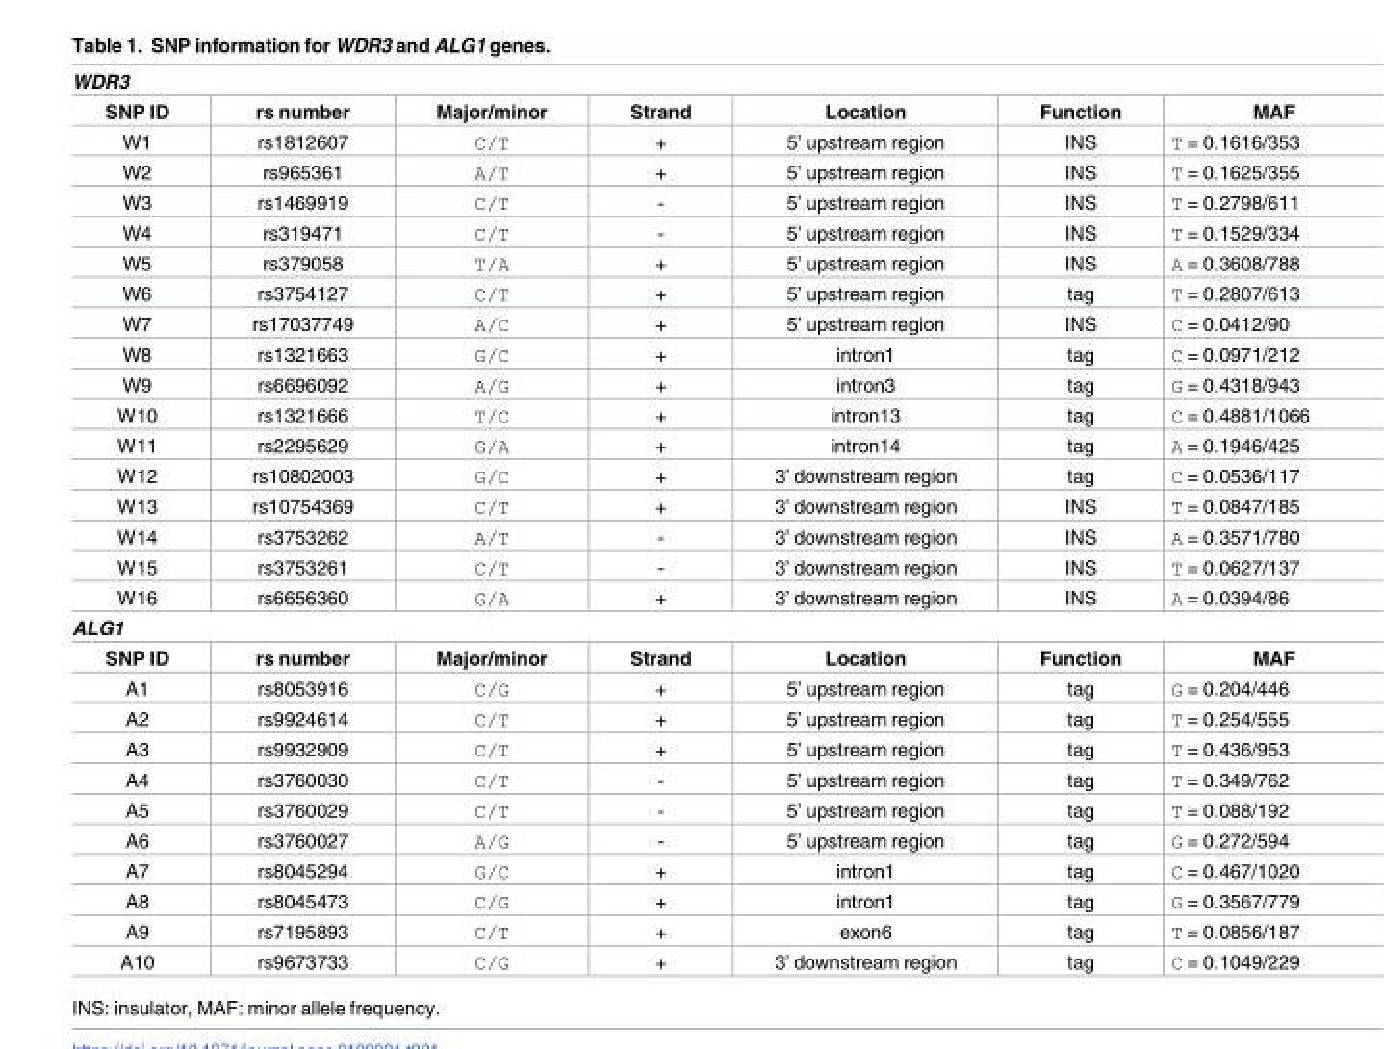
<table><tbody><tr><td colspan="7">WDR3</td></tr><tr><td>SNP ID</td><td>rs number</td><td>Major/minor</td><td>Strand</td><td>Location</td><td>Function</td><td>MAF</td></tr><tr><td>W1</td><td>rs1812607</td><td>C/T</td><td>+</td><td>5’ upstream region</td><td>INS</td><td>T = 0.1616/353</td></tr><tr><td>W2</td><td>rs965361</td><td>A/T</td><td>+</td><td>5’ upstream region</td><td>INS</td><td>T = 0.1625/355</td></tr><tr><td>W3</td><td>rs1469919</td><td>C/T</td><td>-</td><td>5’ upstream region</td><td>INS</td><td>T = 0.2798/611</td></tr><tr><td>W4</td><td>rs319471</td><td>C/T</td><td>-</td><td>5’ upstream region</td><td>INS</td><td>T = 0.1529/334</td></tr><tr><td>W5</td><td>rs379058</td><td>T/A</td><td>+</td><td>5’ upstream region</td><td>INS</td><td>A = 0.3608/788</td></tr><tr><td>W6</td><td>rs3754127</td><td>C/T</td><td>+</td><td>5’ upstream region</td><td>tag</td><td>T = 0.2807/613</td></tr><tr><td>W7</td><td>rs17037749</td><td>A/C</td><td>+</td><td>5’ upstream region</td><td>INS</td><td>C = 0.0412/90</td></tr><tr><td>W8</td><td>rs1321663</td><td>G/C</td><td>+</td><td>intron1</td><td>tag</td><td>C = 0.0971/212</td></tr><tr><td>W9</td><td>rs6696092</td><td>A/G</td><td>+</td><td>intron3</td><td>tag</td><td>G = 0.4318/943</td></tr><tr><td>W10</td><td>rs1321666</td><td>T/C</td><td>+</td><td>intron13</td><td>tag</td><td>C = 0.4881/1066</td></tr><tr><td>W11</td><td>rs2295629</td><td>G/A</td><td>+</td><td>intron14</td><td>tag</td><td>A = 0.1946/425</td></tr><tr><td>W12</td><td>rs10802003</td><td>G/C</td><td>+</td><td>3’ downstream region</td><td>tag</td><td>C = 0.0536/117</td></tr><tr><td>W13</td><td>rs10754369</td><td>C/T</td><td>+</td><td>3’ downstream region</td><td>INS</td><td>T = 0.0847/185</td></tr><tr><td>W14</td><td>rs3753262</td><td>A/T</td><td>-</td><td>3’ downstream region</td><td>INS</td><td>A = 0.3571/780</td></tr><tr><td>W15</td><td>rs3753261</td><td>C/T</td><td>-</td><td>3’ downstream region</td><td>INS</td><td>T = 0.0627/137</td></tr><tr><td>W16</td><td>rs6656360</td><td>G/A</td><td>+</td><td>3’ downstream region</td><td>INS</td><td>A = 0.0394/86</td></tr><tr><td colspan="7">ALG1</td></tr><tr><td>SNP ID</td><td>rs number</td><td>Major/minor</td><td>Strand</td><td>Location</td><td>Function</td><td>MAF</td></tr><tr><td>A1</td><td>rs8053916</td><td>C/G</td><td>+</td><td>5’ upstream region</td><td>tag</td><td>G = 0.204/446</td></tr><tr><td>A2</td><td>rs9924614</td><td>C/T</td><td>+</td><td>5’ upstream region</td><td>tag</td><td>T = 0.254/555</td></tr><tr><td>A3</td><td>rs9932909</td><td>C/T</td><td>+</td><td>5’ upstream region</td><td>tag</td><td>T = 0.436/953</td></tr><tr><td>A4</td><td>rs3760030</td><td>C/T</td><td>-</td><td>5’ upstream region</td><td>tag</td><td>T = 0.349/762</td></tr><tr><td>A5</td><td>rs3760029</td><td>C/T</td><td>-</td><td>5’ upstream region</td><td>tag</td><td>T = 0.088/192</td></tr><tr><td>A6</td><td>rs3760027</td><td>A/G</td><td>-</td><td>5’ upstream region</td><td>tag</td><td>G = 0.272/594</td></tr><tr><td>A7</td><td>rs8045294</td><td>G/C</td><td>+</td><td>intron1</td><td>tag</td><td>C = 0.467/1020</td></tr><tr><td>A8</td><td>rs8045473</td><td>C/G</td><td>+</td><td>intron1</td><td>tag</td><td>G = 0.3567/779</td></tr><tr><td>A9</td><td>rs7195893</td><td>C/T</td><td>+</td><td>exon6</td><td>tag</td><td>T = 0.0856/187</td></tr><tr><td>A10</td><td>rs9673733</td><td>C/G</td><td>+</td><td>3’ downstream region</td><td>tag</td><td>C = 0.1049/229</td></tr></tbody></table>